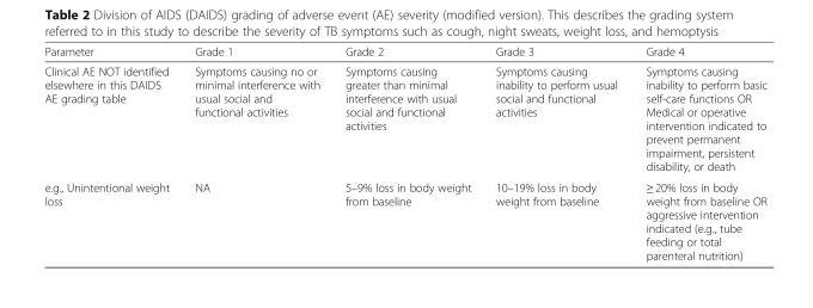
<table><thead><tr><td>Parameter</td><td>Grade 1</td><td>Grade 2</td><td>Grade 3</td><td>Grade 4</td></tr></thead><tbody><tr><td>Clinical AE NOT identified elsewhere in this DAIDS AE grading table</td><td>Symptoms causing no or minimal interference with usual social and functional activities</td><td>Symptoms causing greater than minimal interference with usual social and functional activities</td><td>Symptoms causing inability to perform usual social and functional activities</td><td>Symptoms causing inability to perform basic self-care functions OR Medical or operative intervention indicated to prevent permanent impairment, persistent disability, or death</td></tr><tr><td>e.g., Unintentional weight loss</td><td>NA</td><td>5–9% loss in body weight from baseline</td><td>10–19% loss in body weight from baseline</td><td>≥ 20% loss in body weight from baseline OR aggressive intervention indicated (e.g., tube feeding or total parenteral nutrition)</td></tr></tbody></table>